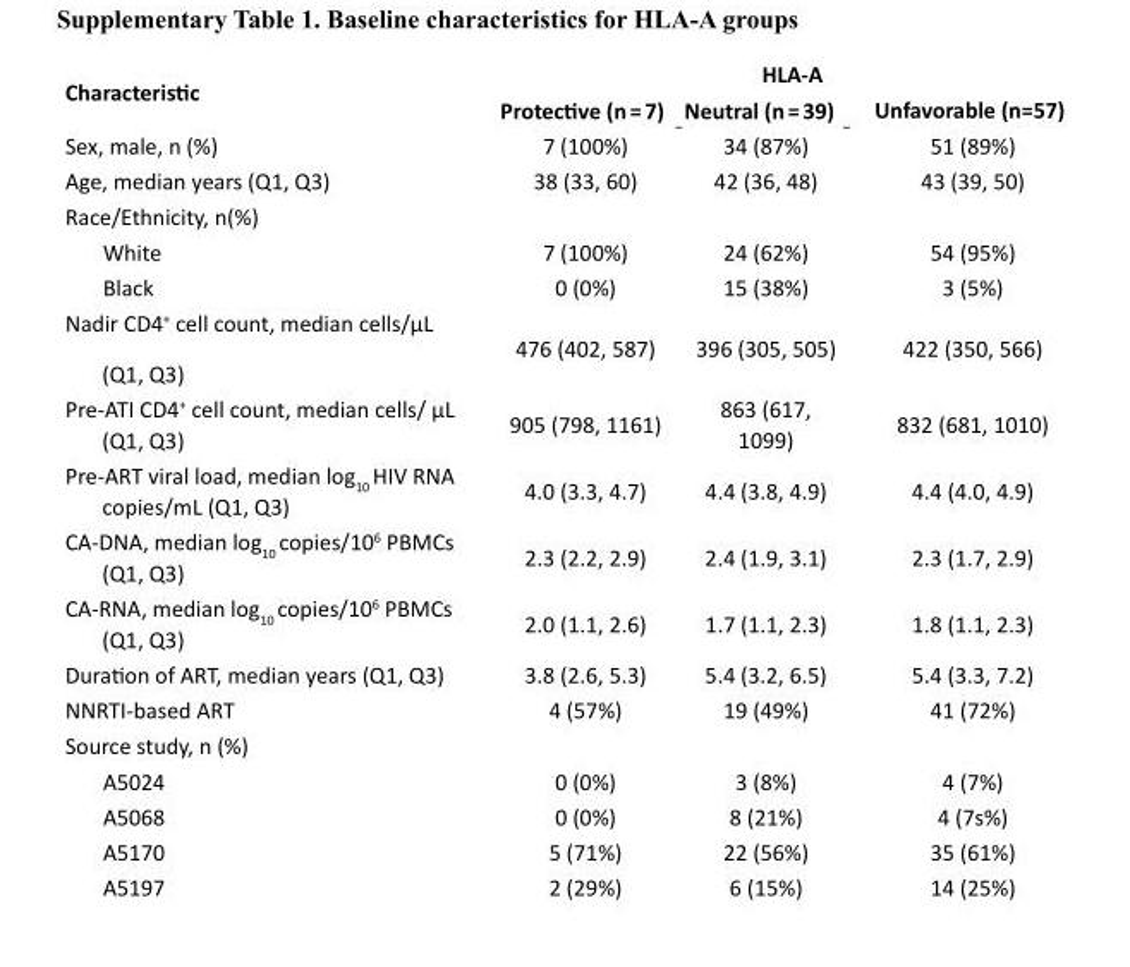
<table><thead><tr><td rowspan="2">Characteristic</td><td colspan="3">HLA-A</td></tr><tr><td>Protective (n = 7)</td><td>Neutral (n = 39)</td><td>Unfavorable (n=57)</td></tr></thead><tbody><tr><td>Sex, male, n (%)</td><td>7 (100%)</td><td>34 (87%)</td><td>51 (89%)</td></tr><tr><td>Age, median years (Q1, Q3)</td><td>38 (33, 60)</td><td>42 (36, 48)</td><td>43 (39, 50)</td></tr><tr><td colspan="4">Race/Ethnicity, n(%)</td></tr><tr><td>White</td><td>7 (100%)</td><td>24 (62%)</td><td>54 (95%)</td></tr><tr><td>Black</td><td>0 (0%)</td><td>15 (38%)</td><td>3 (5%)</td></tr><tr><td>Nadir CD4+ cell count, median cells/µL (Q1, Q3)</td><td>476 (402, 587)</td><td>396 (305, 505)</td><td>422 (350, 566)</td></tr><tr><td>Pre-ATI CD4+ cell count, median cells/ µL (Q1, Q3)</td><td>905 (798, 1161)</td><td>863 (617, 1099)</td><td>832 (681, 1010)</td></tr><tr><td>Pre-ART viral load, median log10 HIV RNA copies/mL (Q1, Q3)</td><td>4.0 (3.3, 4.7)</td><td>4.4 (3.8, 4.9)</td><td>4.4 (4.0, 4.9)</td></tr><tr><td>CA-DNA, median log10 copies/106 PBMCs (Q1, Q3)</td><td>2.3 (2.2, 2.9)</td><td>2.4 (1.9, 3.1)</td><td>2.3 (1.7, 2.9)</td></tr><tr><td>CA-RNA, median log10 copies/106 PBMCs (Q1, Q3)</td><td>2.0 (1.1, 2.6)</td><td>1.7 (1.1, 2.3)</td><td>1.8 (1.1, 2.3)</td></tr><tr><td>Duration of ART, median years (Q1, Q3)</td><td>3.8 (2.6, 5.3)</td><td>5.4 (3.2, 6.5)</td><td>5.4 (3.3, 7.2)</td></tr><tr><td>NNRTI-based ART</td><td>4 (57%)</td><td>19 (49%)</td><td>41 (72%)</td></tr><tr><td colspan="4">Source study, n (%)</td></tr><tr><td>A5024</td><td>0 (0%)</td><td>3 (8%)</td><td>4 (7%)</td></tr><tr><td>A5068</td><td>0 (0%)</td><td>8 (21%)</td><td>4 (7s%)</td></tr><tr><td>A5170</td><td>5 (71%)</td><td>22 (56%)</td><td>35 (61%)</td></tr><tr><td>A5197</td><td>2 (29%)</td><td>6 (15%)</td><td>14 (25%)</td></tr></tbody></table>